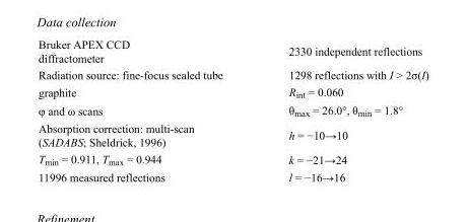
<table><tbody><tr><td>Bruker APEX CCD diffractometer</td><td>2330 independent reflections</td></tr><tr><td>Radiation source: fine-focus sealed tube</td><td>1298 reflections with I &gt; 2σ(I)</td></tr><tr><td>graphite</td><td>R<sub>int</sub> = 0.060</td></tr><tr><td>φ and ω scans</td><td>θ<sub>max</sub> = 26.0°, θ<sub>min</sub> = 1.8°</td></tr><tr><td>Absorption correction: multi-scan (SADABS; Sheldrick, 1996)</td><td>h = −10→10</td></tr><tr><td>T<sub>min</sub> = 0.911, T<sub>max</sub> = 0.944</td><td>k = −21→24</td></tr><tr><td>11996 measured reflections</td><td>l = −16→16</td></tr></tbody></table>